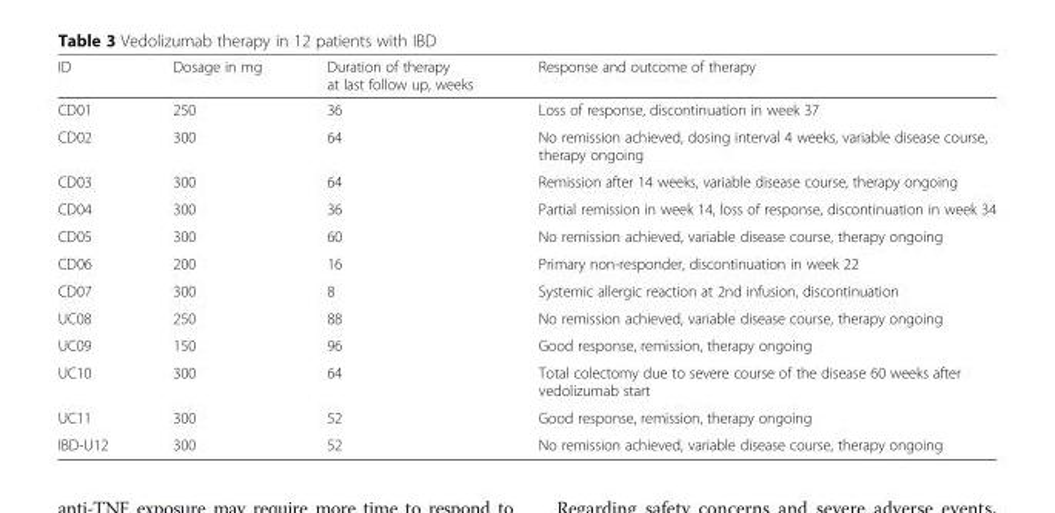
<table><thead><tr><td>ID</td><td>Dosage in mg</td><td>Duration of therapy at last follow up, weeks</td><td>Response and outcome of therapy</td></tr></thead><tbody><tr><td>CD01</td><td>250</td><td>36</td><td>Loss of response, discontinuation in week 37</td></tr><tr><td>CD02</td><td>300</td><td>64</td><td>No remission achieved, dosing interval 4 weeks, variable disease course, therapy ongoing</td></tr><tr><td>CD03</td><td>300</td><td>64</td><td>Remission after 14 weeks, variable disease course, therapy ongoing</td></tr><tr><td>CD04</td><td>300</td><td>36</td><td>Partial remission in week 14, loss of response, discontinuation in week 34</td></tr><tr><td>CD05</td><td>300</td><td>60</td><td>No remission achieved, variable disease course, therapy ongoing</td></tr><tr><td>CD06</td><td>200</td><td>16</td><td>Primary non-responder, discontinuation in week 22</td></tr><tr><td>CD07</td><td>300</td><td>8</td><td>Systemic allergic reaction at 2nd infusion, discontinuation</td></tr><tr><td>UC08</td><td>250</td><td>88</td><td>No remission achieved, variable disease course, therapy ongoing</td></tr><tr><td>UC09</td><td>150</td><td>96</td><td>Good response, remission, therapy ongoing</td></tr><tr><td>UC10</td><td>300</td><td>64</td><td>Total colectomy due to severe course of the disease 60 weeks after vedolizumab start</td></tr><tr><td>UC11</td><td>300</td><td>52</td><td>Good response, remission, therapy ongoing</td></tr><tr><td>IBD-U12</td><td>300</td><td>52</td><td>No remission achieved, variable disease course, therapy ongoing</td></tr></tbody></table>